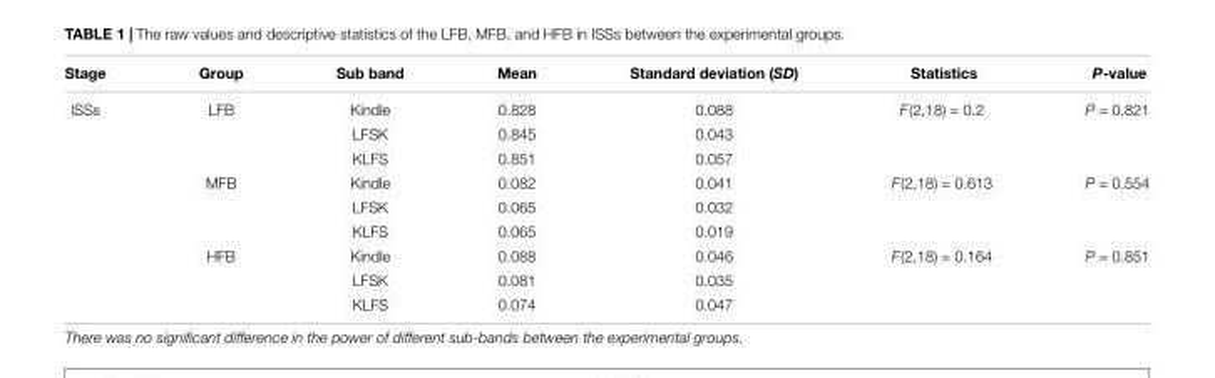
<table><thead><tr><td>Stage</td><td>Group</td><td>Sub band</td><td>Mean</td><td>Standard deviation (SD)</td><td>Statistics</td><td>P-value</td></tr></thead><tbody><tr><td rowspan="9">ISSs</td><td>LFB</td><td>Kindle</td><td>0.828</td><td>0.088</td><td>F(2,18) = 0.2</td><td>P = 0.821</td></tr><tr><td></td><td>LFSK</td><td>0.845</td><td>0.043</td><td></td><td></td></tr><tr><td></td><td>KLFS</td><td>0.851</td><td>0.057</td><td></td><td></td></tr><tr><td>MFB</td><td>Kindle</td><td>0.082</td><td>0.041</td><td>F(2,18) = 0.613</td><td>P = 0.554</td></tr><tr><td></td><td>LFSK</td><td>0.065</td><td>0.032</td><td></td><td></td></tr><tr><td></td><td>KLFS</td><td>0.065</td><td>0.019</td><td></td><td></td></tr><tr><td>HFB</td><td>Kindle</td><td>0.088</td><td>0.046</td><td>F(2,18) = 0.164</td><td>P = 0.851</td></tr><tr><td></td><td>LFSK</td><td>0.081</td><td>0.035</td><td></td><td></td></tr><tr><td></td><td>KLFS</td><td>0.074</td><td>0.047</td><td></td><td></td></tr></tbody></table>